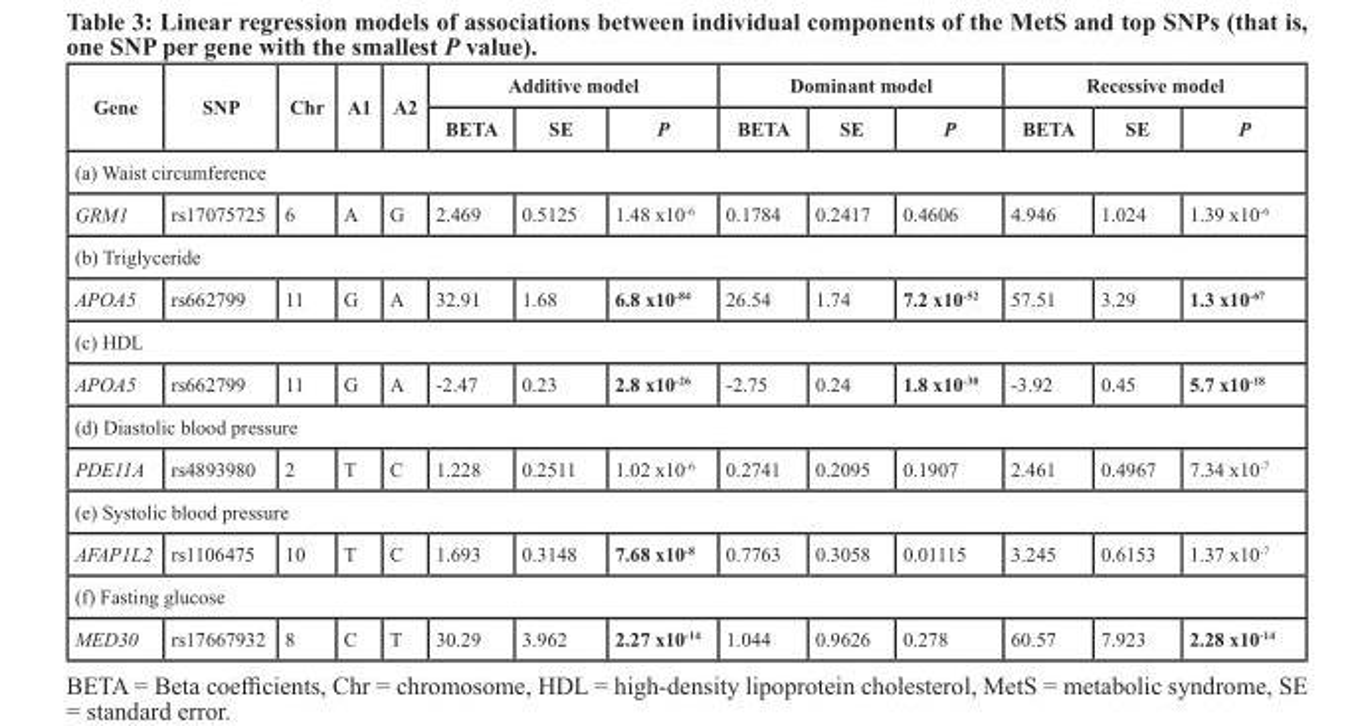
<table><thead><tr><td rowspan="2">Gene</td><td rowspan="2">SNP</td><td rowspan="2">Chr</td><td rowspan="2">A1</td><td rowspan="2">A2</td><td colspan="3">Additive model</td><td colspan="3">Dominant model</td><td colspan="3">Recessive model</td></tr><tr><td>BETA</td><td>SE</td><td>P</td><td>BETA</td><td>SE</td><td>P</td><td>BETA</td><td>SE</td><td>P</td></tr></thead><tbody><tr><td colspan="14">(a) Waist circumference</td></tr><tr><td>GRM1</td><td>rs17075725</td><td>6</td><td>A</td><td>G</td><td>2.469</td><td>0.5125</td><td>1.48 x10<sup>-6</sup></td><td>0.1784</td><td>0.2417</td><td>0.4606</td><td>4.946</td><td>1.024</td><td>1.39 x10<sup>-6</sup></td></tr><tr><td colspan="14">(b) Triglyceride</td></tr><tr><td>APOA5</td><td>rs662799</td><td>11</td><td>G</td><td>A</td><td>32.91</td><td>1.68</td><td>6.8 x10<sup>-84</sup></td><td>26.54</td><td>1.74</td><td>7.2 x10<sup>-52</sup></td><td>57.51</td><td>3.29</td><td>1.3 x10<sup>-67</sup></td></tr><tr><td colspan="14">(c) HDL</td></tr><tr><td>APOA5</td><td>rs662799</td><td>11</td><td>G</td><td>A</td><td>-2.47</td><td>0.23</td><td>2.8 x10<sup>-26</sup></td><td>-2.75</td><td>0.24</td><td>1.8 x10<sup>-30</sup></td><td>-3.92</td><td>0.45</td><td>5.7 x10<sup>-18</sup></td></tr><tr><td colspan="14">(d) Diastolic blood pressure</td></tr><tr><td>PDE11A</td><td>rs4893980</td><td>2</td><td>T</td><td>C</td><td>1.228</td><td>0.2511</td><td>1.02 x10<sup>-6</sup></td><td>0.2741</td><td>0.2095</td><td>0.1907</td><td>2.461</td><td>0.4967</td><td>7.34 x10<sup>-7</sup></td></tr><tr><td colspan="14">(e) Systolic blood pressure</td></tr><tr><td>AFAP1L2</td><td>rs1106475</td><td>10</td><td>T</td><td>C</td><td>1.693</td><td>0.3148</td><td>7.68 x10<sup>-8</sup></td><td>0.7763</td><td>0.3058</td><td>0.01115</td><td>3.245</td><td>0.6153</td><td>1.37 x10<sup>-7</sup></td></tr><tr><td colspan="14">(f) Fasting glucose</td></tr><tr><td>MED30</td><td>rs17667932</td><td>8</td><td>C</td><td>T</td><td>30.29</td><td>3.962</td><td>2.27 x10<sup>-14</sup></td><td>1.044</td><td>0.9626</td><td>0.278</td><td>60.57</td><td>7.923</td><td>2.28 x10<sup>-14</sup></td></tr></tbody></table>